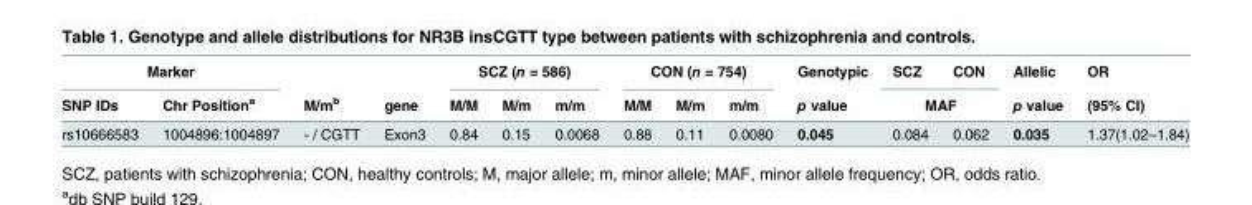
<table><thead><tr><td colspan="2">Marker</td><td rowspan="2">M/m<sup>b</sup></td><td rowspan="2">gene</td><td colspan="3">SCZ (n = 586)</td><td colspan="3">CON (n = 754)</td><td rowspan="2">Genotypic p value</td><td>SCZ</td><td>CON</td><td rowspan="2">Allelic p value</td><td rowspan="2">OR (95% CI)</td></tr><tr><td>SNP IDs</td><td>Chr Position<sup>a</sup></td><td>M/M</td><td>M/m</td><td>m/m</td><td>M/M</td><td>M/m</td><td>m/m</td><td colspan="2">MAF</td></tr></thead><tbody><tr><td>rs10666583</td><td>1004896:1004897</td><td>- / CGTT</td><td>Exon3</td><td>0.84</td><td>0.15</td><td>0.0068</td><td>0.88</td><td>0.11</td><td>0.0080</td><td>0.045</td><td>0.084</td><td>0.062</td><td>0.035</td><td>1.37(1.02–1.84)</td></tr></tbody></table>